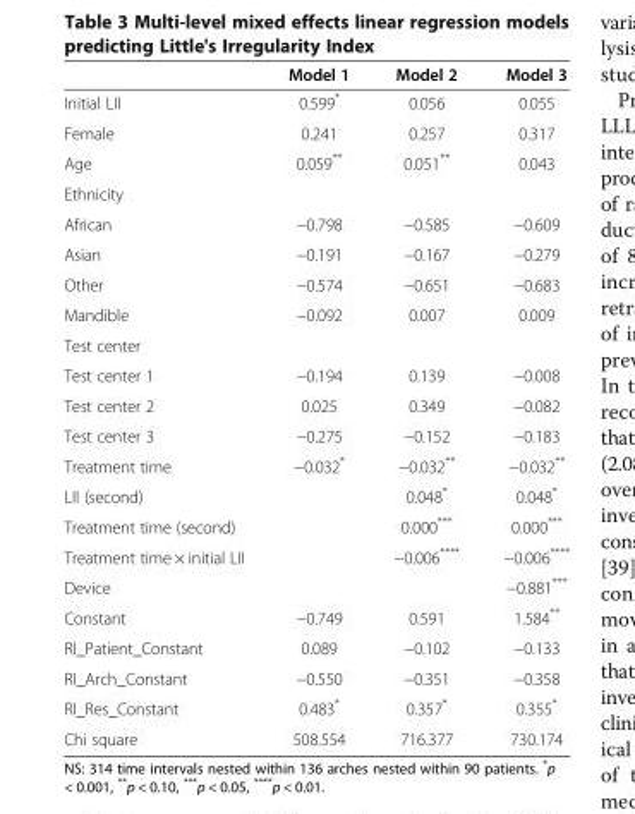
<table><thead><tr><td></td><td>Model 1</td><td>Model 2</td><td>Model 3</td></tr></thead><tbody><tr><td>Initial LII</td><td>0.599*</td><td>0.056</td><td>0.055</td></tr><tr><td>Female</td><td>0.241</td><td>0.257</td><td>0.317</td></tr><tr><td>Age</td><td>0.059**</td><td>0.051**</td><td>0.043</td></tr><tr><td colspan="4">Ethnicity</td></tr><tr><td>African</td><td>−0.798</td><td>−0.585</td><td>−0.609</td></tr><tr><td>Asian</td><td>−0.191</td><td>−0.167</td><td>−0.279</td></tr><tr><td>Other</td><td>−0.574</td><td>−0.651</td><td>−0.683</td></tr><tr><td>Mandible</td><td>−0.092</td><td>0.007</td><td>0.009</td></tr><tr><td colspan="4">Test center</td></tr><tr><td>Test center 1</td><td>−0.194</td><td>0.139</td><td>−0.008</td></tr><tr><td>Test center 2</td><td>0.025</td><td>0.349</td><td>−0.082</td></tr><tr><td>Test center 3</td><td>−0.275</td><td>−0.152</td><td>−0.183</td></tr><tr><td>Treatment time</td><td>−0.032*</td><td>−0.032**</td><td>−0.032**</td></tr><tr><td>LII (second)</td><td></td><td>0.048*</td><td>0.048*</td></tr><tr><td>Treatment time (second)</td><td></td><td>0.000***</td><td>0.000***</td></tr><tr><td>Treatment time × initial LII</td><td></td><td>−0.006****</td><td>−0.006****</td></tr><tr><td>Device</td><td></td><td></td><td>−0.881***</td></tr><tr><td>Constant</td><td>−0.749</td><td>0.591</td><td>1.584**</td></tr><tr><td>RI_Patient_Constant</td><td>0.089</td><td>−0.102</td><td>−0.133</td></tr><tr><td>RI_Arch_Constant</td><td>−0.550</td><td>−0.351</td><td>−0.358</td></tr><tr><td>RI_Res_Constant</td><td>0.483*</td><td>0.357*</td><td>0.355*</td></tr><tr><td>Chi square</td><td>508.554</td><td>716.377</td><td>730.174</td></tr></tbody></table>